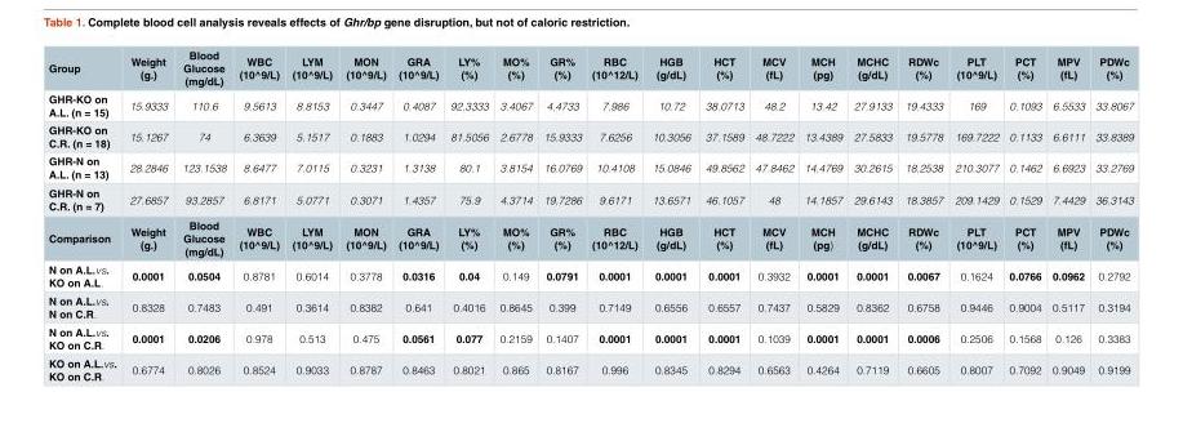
<table><thead><tr><td>Group</td><td>Weight (g.)</td><td>Blood Glucose (mg/dL)</td><td>WBC (10^9/L)</td><td>LYM (10^9/L)</td><td>MON (10^9/L)</td><td>GRA (10^9/L)</td><td>LY% (%)</td><td>MO% (%)</td><td>GR% (%)</td><td>RBC (10^12/L)</td><td>HGB (g/dL)</td><td>HCT (%)</td><td>MCV (fL)</td><td>MCH (pg)</td><td>MCHC (g/dL)</td><td>RDWc (%)</td><td>PLT (10^9/L)</td><td>PCT (%)</td><td>MPV (fL)</td><td>PDWc (%)</td></tr></thead><tbody><tr><td>GHR-KO on A.L. (n = 15)</td><td>15.9333</td><td>110.6</td><td>9.5613</td><td>8.8153</td><td>0.3447</td><td>0.4087</td><td>92.3333</td><td>3.4067</td><td>4.4733</td><td>7.986</td><td>10.72</td><td>38.0713</td><td>48.2</td><td>13.42</td><td>27.9133</td><td>19.4333</td><td>169</td><td>0.1093</td><td>6.5533</td><td>33.8067</td></tr><tr><td>GHR-KO on C.R. (n = 18)</td><td>15.1267</td><td>74</td><td>6.3639</td><td>5.1517</td><td>0.1883</td><td>1.0294</td><td>81.5056</td><td>2.6778</td><td>15.9333</td><td>7.6256</td><td>10.3056</td><td>37.1589</td><td>48.7222</td><td>13.4389</td><td>27.5833</td><td>19.5778</td><td>169.7222</td><td>0.1133</td><td>6.6111</td><td>33.8389</td></tr><tr><td>GHR-N on A.L. (n = 13)</td><td>28.2846</td><td>123.1538</td><td>8.6477</td><td>7.0115</td><td>0.3231</td><td>1.3138</td><td>80.1</td><td>3.8154</td><td>16.0769</td><td>10.4108</td><td>15.0846</td><td>49.8562</td><td>47.8462</td><td>14.4769</td><td>30.2615</td><td>18.2538</td><td>210.3077</td><td>0.1462</td><td>6.6923</td><td>33.2769</td></tr><tr><td>GHR-N on C.R. (n = 7)</td><td>27.6857</td><td>93.2857</td><td>6.8171</td><td>5.0771</td><td>0.3071</td><td>1.4357</td><td>75.9</td><td>4.3714</td><td>19.7286</td><td>9.6171</td><td>13.6571</td><td>46.1057</td><td>48</td><td>14.1857</td><td>29.6143</td><td>18.3857</td><td>209.1429</td><td>0.1529</td><td>7.4429</td><td>36.3143</td></tr><tr><td>Comparison</td><td>Weight (g.)</td><td>Blood Glucose (mg/dL)</td><td>WBC (10^9/L)</td><td>LYM (10^9/L)</td><td>MON (10^9/L)</td><td>GRA (10^9/L)</td><td>LY% (%)</td><td>MO% (%)</td><td>GR% (%)</td><td>RBC (10^12/L)</td><td>HGB (g/dL)</td><td>HCT (%)</td><td>MCV (fL)</td><td>MCH (pg)</td><td>MCHC (g/dL)</td><td>RDWc (%)</td><td>PLT (10^9/L)</td><td>PCT (%)</td><td>MPV (fL)</td><td>PDWc (%)</td></tr><tr><td>N on A.L.vs. KO on A.L.</td><td>0.0001</td><td>0.0504</td><td>0.8781</td><td>0.6014</td><td>0.3778</td><td>0.0316</td><td>0.04</td><td>0.149</td><td>0.0791</td><td>0.0001</td><td>0.0001</td><td>0.0001</td><td>0.3932</td><td>0.0001</td><td>0.0001</td><td>0.0067</td><td>0.1624</td><td>0.0766</td><td>0.0962</td><td>0.2792</td></tr><tr><td>N on A.L.vs. N on C.R.</td><td>0.8328</td><td>0.7483</td><td>0.491</td><td>0.3614</td><td>0.8382</td><td>0.641</td><td>0.4016</td><td>0.8645</td><td>0.399</td><td>0.7149</td><td>0.6556</td><td>0.6557</td><td>0.7437</td><td>0.5829</td><td>0.8362</td><td>0.6758</td><td>0.9446</td><td>0.9004</td><td>0.5117</td><td>0.3194</td></tr><tr><td>N on A.L.vs. KO on C.R.</td><td>0.0001</td><td>0.0206</td><td>0.978</td><td>0.513</td><td>0.475</td><td>0.0561</td><td>0.077</td><td>0.2159</td><td>0.1407</td><td>0.0001</td><td>0.0001</td><td>0.0001</td><td>0.1039</td><td>0.0001</td><td>0.0001</td><td>0.0006</td><td>0.2506</td><td>0.1568</td><td>0.126</td><td>0.3383</td></tr><tr><td>KO on A.L.vs. KO on C.R.</td><td>0.6774</td><td>0.8026</td><td>0.8524</td><td>0.9033</td><td>0.8787</td><td>0.8463</td><td>0.8021</td><td>0.865</td><td>0.8167</td><td>0.996</td><td>0.8345</td><td>0.8294</td><td>0.6563</td><td>0.4264</td><td>0.7119</td><td>0.6605</td><td>0.8007</td><td>0.7092</td><td>0.9049</td><td>0.9199</td></tr></tbody></table>